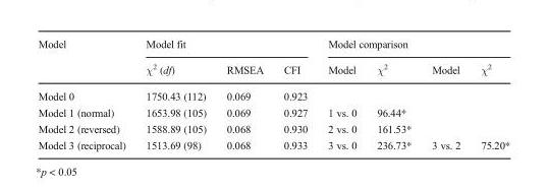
<table><thead><tr><td rowspan="2">Model</td><td colspan="3">Model fit</td><td colspan="4">Model comparison</td></tr><tr><td>χ<sup>2</sup> (df)</td><td>RMSEA</td><td>CFI</td><td>Model</td><td>χ<sup>2</sup></td><td>Model</td><td>χ<sup>2</sup></td></tr></thead><tbody><tr><td>Model 0</td><td>1750.43 (112)</td><td>0.069</td><td>0.923</td><td></td><td></td><td></td><td></td></tr><tr><td>Model 1 (normal)</td><td>1653.98 (105)</td><td>0.069</td><td>0.927</td><td>1 vs. 0</td><td>96.44*</td><td></td><td></td></tr><tr><td>Model 2 (reversed)</td><td>1588.89 (105)</td><td>0.068</td><td>0.930</td><td>2 vs. 0</td><td>161.53*</td><td></td><td></td></tr><tr><td>Model 3 (reciprocal)</td><td>1513.69 (98)</td><td>0.068</td><td>0.933</td><td>3 vs. 0</td><td>236.73*</td><td>3 vs. 2</td><td>75.20*</td></tr></tbody></table>